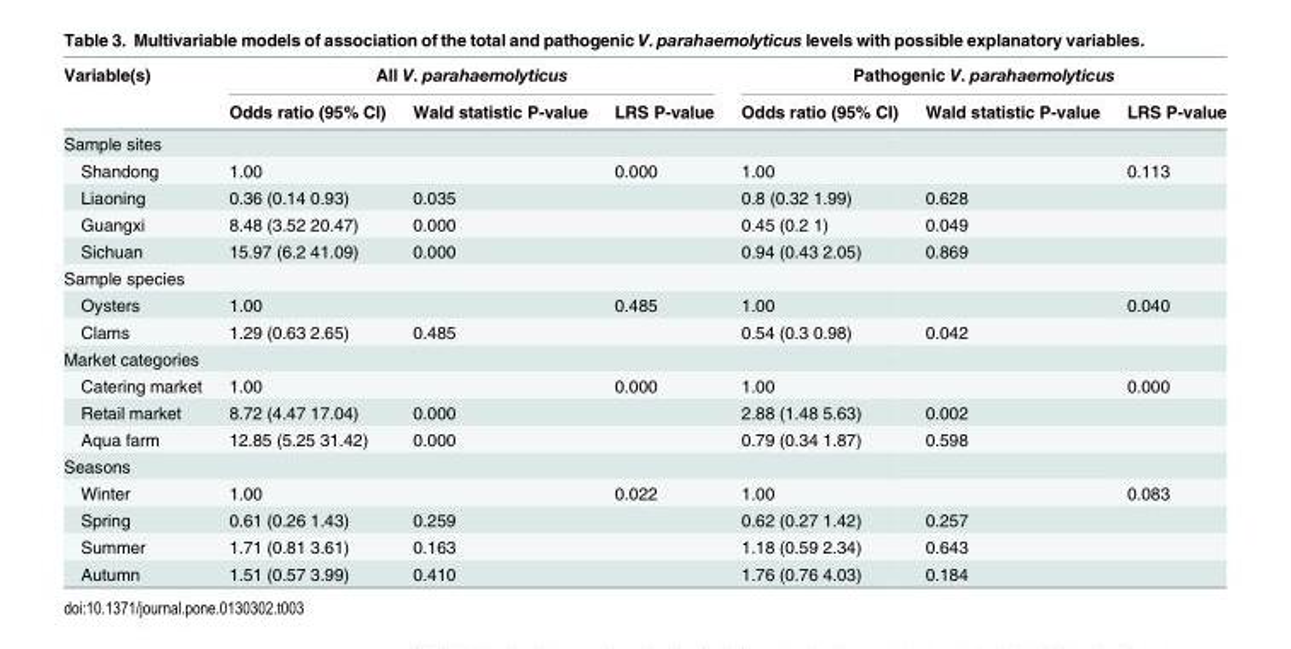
<table><thead><tr><td rowspan="2">Variable(s)</td><td colspan="3">All V. parahaemolyticus</td><td colspan="3">Pathogenic V. parahaemolyticus</td></tr><tr><td>Odds ratio (95% CI)</td><td>Wald statistic P-value</td><td>LRS P-value</td><td>Odds ratio (95% CI)</td><td>Wald statistic P-value</td><td>LRS P-value</td></tr></thead><tbody><tr><td colspan="7">Sample sites</td></tr><tr><td>Shandong</td><td>1.00</td><td></td><td>0.000</td><td>1.00</td><td></td><td>0.113</td></tr><tr><td>Liaoning</td><td>0.36 (0.14 0.93)</td><td>0.035</td><td></td><td>0.8 (0.32 1.99)</td><td>0.628</td><td></td></tr><tr><td>Guangxi</td><td>8.48 (3.52 20.47)</td><td>0.000</td><td></td><td>0.45 (0.2 1)</td><td>0.049</td><td></td></tr><tr><td>Sichuan</td><td>15.97 (6.2 41.09)</td><td>0.000</td><td></td><td>0.94 (0.43 2.05)</td><td>0.869</td><td></td></tr><tr><td colspan="7">Sample species</td></tr><tr><td>Oysters</td><td>1.00</td><td></td><td>0.485</td><td>1.00</td><td></td><td>0.040</td></tr><tr><td>Clams</td><td>1.29 (0.63 2.65)</td><td>0.485</td><td></td><td>0.54 (0.3 0.98)</td><td>0.042</td><td></td></tr><tr><td colspan="7">Market categories</td></tr><tr><td>Catering market</td><td>1.00</td><td></td><td>0.000</td><td>1.00</td><td></td><td>0.000</td></tr><tr><td>Retail market</td><td>8.72 (4.47 17.04)</td><td>0.000</td><td></td><td>2.88 (1.48 5.63)</td><td>0.002</td><td></td></tr><tr><td>Aqua farm</td><td>12.85 (5.25 31.42)</td><td>0.000</td><td></td><td>0.79 (0.34 1.87)</td><td>0.598</td><td></td></tr><tr><td colspan="7">Seasons</td></tr><tr><td>Winter</td><td>1.00</td><td></td><td>0.022</td><td>1.00</td><td></td><td>0.083</td></tr><tr><td>Spring</td><td>0.61 (0.26 1.43)</td><td>0.259</td><td></td><td>0.62 (0.27 1.42)</td><td>0.257</td><td></td></tr><tr><td>Summer</td><td>1.71 (0.81 3.61)</td><td>0.163</td><td></td><td>1.18 (0.59 2.34)</td><td>0.643</td><td></td></tr><tr><td>Autumn</td><td>1.51 (0.57 3.99)</td><td>0.410</td><td></td><td>1.76 (0.76 4.03)</td><td>0.184</td><td></td></tr></tbody></table>